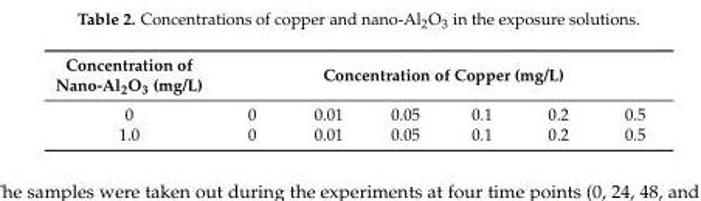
<table><thead><tr><td rowspan="2">Concentration of Nano-Al<sub>2</sub>O<sub>3</sub> (mg/L) 0</td><td colspan="6">Concentration of Copper (mg/L)</td></tr><tr><td>0</td><td>0.01</td><td>0.05</td><td>0.1</td><td>0.2</td><td>0.5</td></tr></thead><tbody><tr><td>1.0</td><td>0</td><td>0.01</td><td>0.05</td><td>0.1</td><td>0.2</td><td>0.5</td></tr></tbody></table>